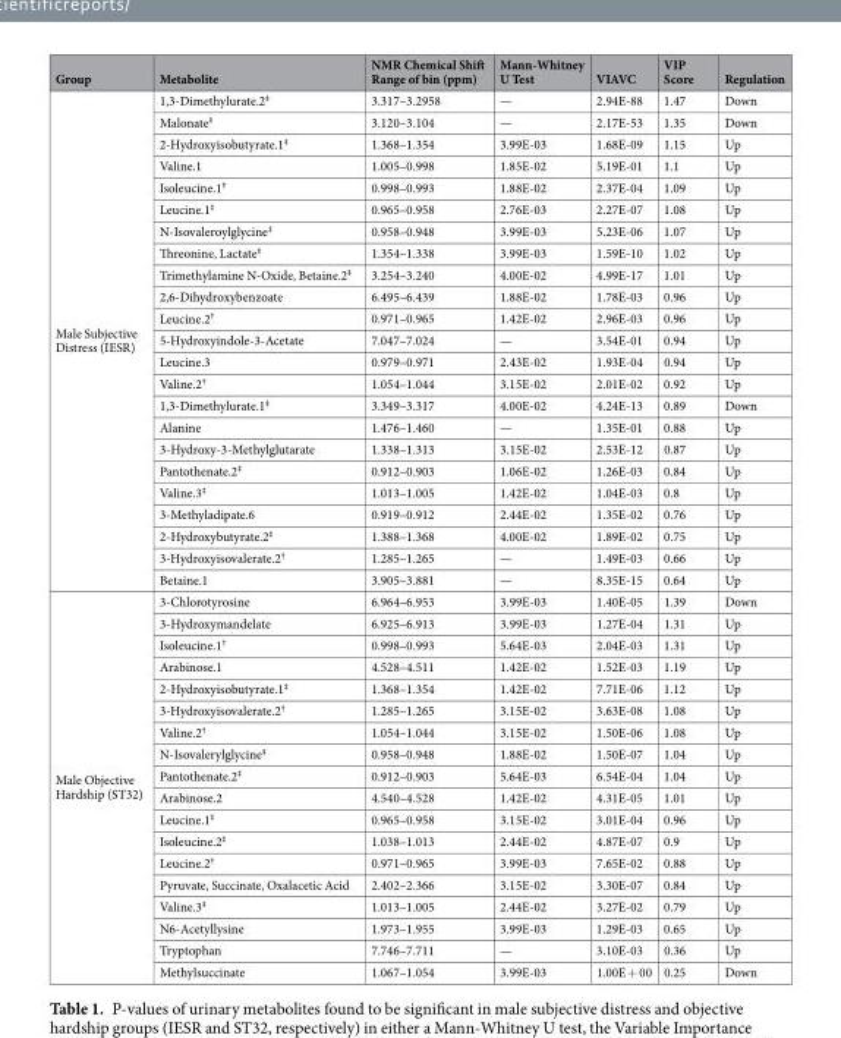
<table><thead><tr><td>Group</td><td>Metabolite</td><td>NMR Chemical Shift Range of bin (ppm)</td><td>Mann-Whitney U Test</td><td>VIAVC</td><td>VIP Score</td><td>Regulation</td></tr></thead><tbody><tr><td rowspan="23">Male Subjective Distress (IESR)</td><td>1,3-Dimethylurate.2<sup>‡</sup></td><td>3.317–3.2958</td><td>—</td><td>2.94E-88</td><td>1.47</td><td>Down</td></tr><tr><td>Malonate<sup>‡</sup></td><td>3.120–3.104</td><td>—</td><td>2.17E-53</td><td>1.35</td><td>Down</td></tr><tr><td>2-Hydroxyisobutyrate.1<sup>‡</sup></td><td>1.368–1.354</td><td>3.99E-03</td><td>1.68E-09</td><td>1.15</td><td>Up</td></tr><tr><td>Valine.1</td><td>1.005–0.998</td><td>1.85E-02</td><td>5.19E-01</td><td>1.1</td><td>Up</td></tr><tr><td>Isoleucine.1<sup>†</sup></td><td>0.998–0.993</td><td>1.88E-02</td><td>2.37E-04</td><td>1.09</td><td>Up</td></tr><tr><td>Leucine.1<sup>‡</sup></td><td>0.965–0.958</td><td>2.76E-03</td><td>2.27E-07</td><td>1.08</td><td>Up</td></tr><tr><td>N-Isovaleroylglycine<sup>‡</sup></td><td>0.958–0.948</td><td>3.99E-03</td><td>5.23E-06</td><td>1.07</td><td>Up</td></tr><tr><td>Threonine, Lactate<sup>‡</sup></td><td>1.354–1.338</td><td>3.99E-03</td><td>1.59E-10</td><td>1.02</td><td>Up</td></tr><tr><td>Trimethylamine N-Oxide, Betaine.2<sup>‡</sup></td><td>3.254–3.240</td><td>4.00E-02</td><td>4.99E-17</td><td>1.01</td><td>Up</td></tr><tr><td>2,6-Dihydroxybenzoate</td><td>6.495–6.439</td><td>1.88E-02</td><td>1.78E-03</td><td>0.96</td><td>Up</td></tr><tr><td>Leucine.2<sup>†</sup></td><td>0.971–0.965</td><td>1.42E-02</td><td>2.96E-03</td><td>0.96</td><td>Up</td></tr><tr><td>5-Hydroxyindole-3-Acetate</td><td>7.047–7.024</td><td>—</td><td>3.54E-01</td><td>0.94</td><td>Up</td></tr><tr><td>Leucine.3</td><td>0.979–0.971</td><td>2.43E-02</td><td>1.93E-04</td><td>0.94</td><td>Up</td></tr><tr><td>Valine.2<sup>†</sup></td><td>1.054–1.044</td><td>3.15E-02</td><td>2.01E-02</td><td>0.92</td><td>Up</td></tr><tr><td>1,3-Dimethylurate.1<sup>‡</sup></td><td>3.349–3.317</td><td>4.00E-02</td><td>4.24E-13</td><td>0.89</td><td>Down</td></tr><tr><td>Alanine</td><td>1.476–1.460</td><td>—</td><td>1.35E-01</td><td>0.88</td><td>Up</td></tr><tr><td>3-Hydroxy-3-Methylglutarate</td><td>1.338–1.313</td><td>3.15E-02</td><td>2.53E-12</td><td>0.87</td><td>Up</td></tr><tr><td>Pantothenate.2<sup>‡</sup></td><td>0.912–0.903</td><td>1.06E-02</td><td>1.26E-03</td><td>0.84</td><td>Up</td></tr><tr><td>Valine.3<sup>‡</sup></td><td>1.013–1.005</td><td>1.42E-02</td><td>1.04E-03</td><td>0.8</td><td>Up</td></tr><tr><td>3-Methyladipate.6</td><td>0.919–0.912</td><td>2.44E-02</td><td>1.35E-02</td><td>0.76</td><td>Up</td></tr><tr><td>2-Hydroxybutyrate.2<sup>‡</sup></td><td>1.388–1.368</td><td>4.00E-02</td><td>1.89E-02</td><td>0.75</td><td>Up</td></tr><tr><td>3-Hydroxyisovalerate.2<sup>†</sup></td><td>1.285–1.265</td><td>—</td><td>1.49E-03</td><td>0.66</td><td>Up</td></tr><tr><td>Betaine.1</td><td>3.905–3.881</td><td>—</td><td>8.35E-15</td><td>0.64</td><td>Up</td></tr><tr><td rowspan="18">Male Objective Hardship (ST32)</td><td>3-Chlorotyrosine</td><td>6.964–6.953</td><td>3.99E-03</td><td>1.40E-05</td><td>1.39</td><td>Down</td></tr><tr><td>3-Hydroxymandelate</td><td>6.925–6.913</td><td>3.99E-03</td><td>1.27E-04</td><td>1.31</td><td>Up</td></tr><tr><td>Isoleucine.1<sup>†</sup></td><td>0.998–0.993</td><td>5.64E-03</td><td>2.04E-03</td><td>1.31</td><td>Up</td></tr><tr><td>Arabinose.1</td><td>4.528–4.511</td><td>1.42E-02</td><td>1.52E-03</td><td>1.19</td><td>Up</td></tr><tr><td>2-Hydroxyisobutyrate.1<sup>‡</sup></td><td>1.368–1.354</td><td>1.42E-02</td><td>7.71E-06</td><td>1.12</td><td>Up</td></tr><tr><td>3-Hydroxyisovalerate.2<sup>†</sup></td><td>1.285–1.265</td><td>3.15E-02</td><td>3.63E-08</td><td>1.08</td><td>Up</td></tr><tr><td>Valine.2<sup>†</sup></td><td>1.054–1.044</td><td>3.15E-02</td><td>1.50E-06</td><td>1.08</td><td>Up</td></tr><tr><td>N-Isovalerylglycine<sup>‡</sup></td><td>0.958–0.948</td><td>1.88E-02</td><td>1.50E-07</td><td>1.04</td><td>Up</td></tr><tr><td>Pantothenate.2<sup>‡</sup></td><td>0.912–0.903</td><td>5.64E-03</td><td>6.54E-04</td><td>1.04</td><td>Up</td></tr><tr><td>Arabinose.2</td><td>4.540–4.528</td><td>1.42E-02</td><td>4.31E-05</td><td>1.01</td><td>Up</td></tr><tr><td>Leucine.1<sup>‡</sup></td><td>0.965–0.958</td><td>3.15E-02</td><td>3.01E-04</td><td>0.96</td><td>Up</td></tr><tr><td>Isoleucine.2<sup>‡</sup></td><td>1.038–1.013</td><td>2.44E-02</td><td>4.87E-07</td><td>0.9</td><td>Up</td></tr><tr><td>Leucine.2<sup>†</sup></td><td>0.971–0.965</td><td>3.99E-03</td><td>7.65E-02</td><td>0.88</td><td>Up</td></tr><tr><td>Pyruvate, Succinate, Oxalacetic Acid</td><td>2.402–2.366</td><td>3.15E-02</td><td>3.30E-07</td><td>0.84</td><td>Up</td></tr><tr><td>Valine.3<sup>‡</sup></td><td>1.013–1.005</td><td>2.44E-02</td><td>3.27E-02</td><td>0.79</td><td>Up</td></tr><tr><td>N6-Acetyllysine</td><td>1.973–1.955</td><td>3.99E-03</td><td>1.29E-03</td><td>0.65</td><td>Up</td></tr><tr><td>Tryptophan</td><td>7.746–7.711</td><td>—</td><td>3.10E-03</td><td>0.36</td><td>Up</td></tr><tr><td>Methylsuccinate</td><td>1.067–1.054</td><td>3.99E-03</td><td>1.00E + 00</td><td>0.25</td><td>Down</td></tr></tbody></table>